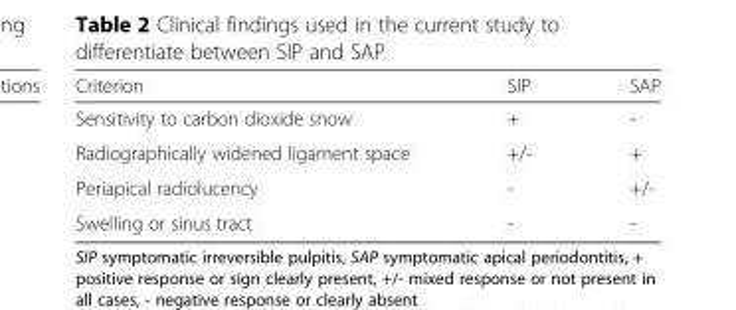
<table><thead><tr><td>Criterion</td><td>SIP</td><td>SAP</td></tr></thead><tbody><tr><td>Sensitivity to carbon dioxide snow</td><td>+</td><td>-</td></tr><tr><td>Radiographically widened ligament space</td><td>+/-</td><td>+</td></tr><tr><td>Periapical radiolucency</td><td>-</td><td>+/-</td></tr><tr><td>Swelling or sinus tract</td><td>-</td><td>-</td></tr></tbody></table>